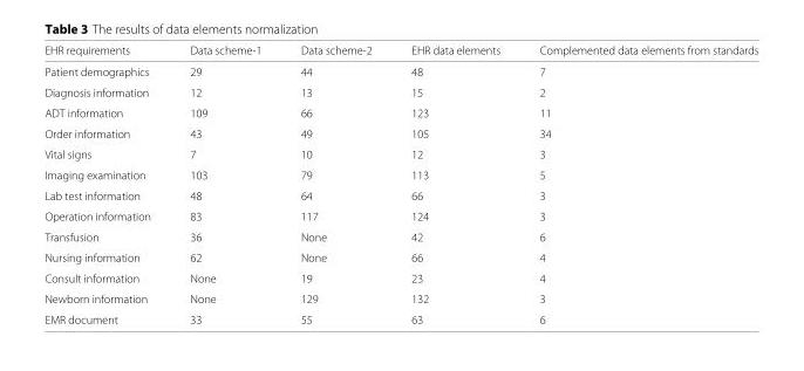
<table><thead><tr><td>EHR requirements</td><td>Data scheme-1</td><td>Data scheme-2</td><td>EHR data elements</td><td>Complemented data elements from standards</td></tr></thead><tbody><tr><td>Patient demographics</td><td>29</td><td>44</td><td>48</td><td>7</td></tr><tr><td>Diagnosis information</td><td>12</td><td>13</td><td>15</td><td>2</td></tr><tr><td>ADT information</td><td>109</td><td>66</td><td>123</td><td>11</td></tr><tr><td>Order information</td><td>43</td><td>49</td><td>105</td><td>34</td></tr><tr><td>Vital signs</td><td>7</td><td>10</td><td>12</td><td>3</td></tr><tr><td>Imaging examination</td><td>103</td><td>79</td><td>113</td><td>5</td></tr><tr><td>Lab test information</td><td>48</td><td>64</td><td>66</td><td>3</td></tr><tr><td>Operation information</td><td>83</td><td>117</td><td>124</td><td>3</td></tr><tr><td>Transfusion</td><td>36</td><td>None</td><td>42</td><td>6</td></tr><tr><td>Nursing information</td><td>62</td><td>None</td><td>66</td><td>4</td></tr><tr><td>Consult information</td><td>None</td><td>19</td><td>23</td><td>4</td></tr><tr><td>Newborn information</td><td>None</td><td>129</td><td>132</td><td>3</td></tr><tr><td>EMR document</td><td>33</td><td>55</td><td>63</td><td>6</td></tr></tbody></table>